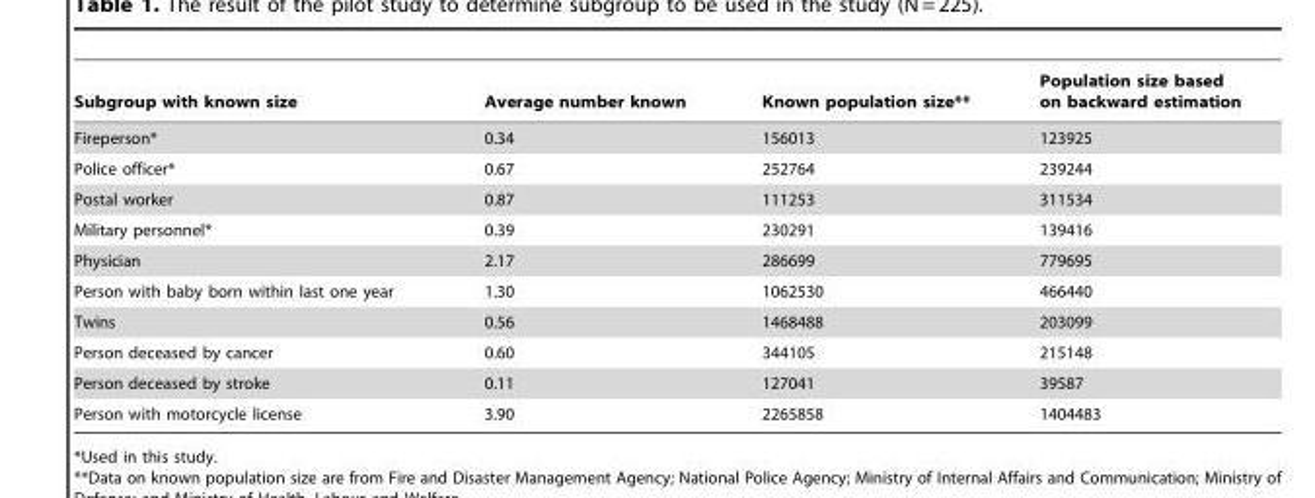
<table><thead><tr><td>Subgroup with known size</td><td>Average number known</td><td>Known population size**</td><td>Population size based on backward estimation</td></tr></thead><tbody><tr><td>Fireperson*</td><td>0.34</td><td>156013</td><td>123925</td></tr><tr><td>Police officer*</td><td>0.67</td><td>252764</td><td>239244</td></tr><tr><td>Postal worker</td><td>0.87</td><td>111253</td><td>311534</td></tr><tr><td>Military personnel*</td><td>0.39</td><td>230291</td><td>139416</td></tr><tr><td>Physician</td><td>2.17</td><td>286699</td><td>779695</td></tr><tr><td>Person with baby born within last one year</td><td>1.30</td><td>1062530</td><td>466440</td></tr><tr><td>Twins</td><td>0.56</td><td>1468488</td><td>203099</td></tr><tr><td>Person deceased by cancer</td><td>0.60</td><td>344105</td><td>215148</td></tr><tr><td>Person deceased by stroke</td><td>0.11</td><td>127041</td><td>39587</td></tr><tr><td>Person with motorcycle license</td><td>3.90</td><td>2265858</td><td>1404483</td></tr></tbody></table>